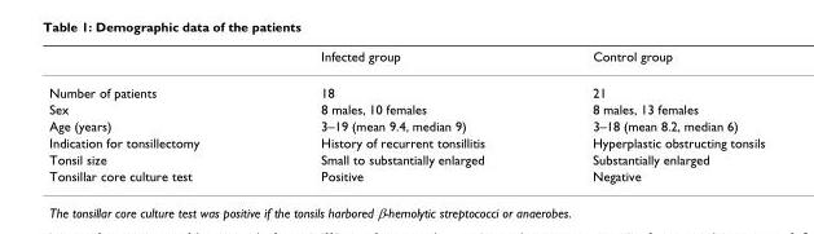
<table><thead><tr><td></td><td>Infected group</td><td>Control group</td></tr></thead><tbody><tr><td>Number of patients</td><td>18</td><td>21</td></tr><tr><td>Sex</td><td>8 males, 10 females</td><td>8 males, 13 females</td></tr><tr><td>Age (years)</td><td>3–19 (mean 9.4, median 9)</td><td>3–18 (mean 8.2, median 6)</td></tr><tr><td>Indication for tonsillectomy</td><td>History of recurrent tonsillitis</td><td>Hyperplastic obstructing tonsils</td></tr><tr><td>Tonsil size</td><td>Small to substantially enlarged</td><td>Substantially enlarged</td></tr><tr><td>Tonsillar core culture test</td><td>Positive</td><td>Negative</td></tr></tbody></table>